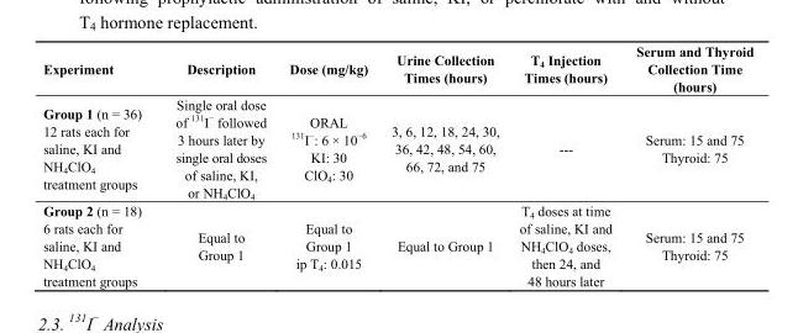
<table><thead><tr><td>Experiment</td><td>Description</td><td>Dose (mg/kg)</td><td>Urine Collection Times (hours)</td><td>T<sub>4</sub> Injection Times (hours)</td><td>Serum and Thyroid Collection Time (hours)</td></tr></thead><tbody><tr><td>Group 1 (n = 36) 12 rats each for saline, KI and NH<sub>4</sub>ClO<sub>4</sub> treatment groups</td><td>Single oral dose of <sup>131</sup>I<sup>−</sup> followed 3 hours later by single oral doses of saline, KI, or NH<sub>4</sub>ClO<sub>4</sub></td><td>ORAL <sup>131</sup>I<sup>−</sup>: 6 × 10<sup>−6</sup> KI: 30 ClO<sub>4</sub>: 30</td><td>3, 6, 12, 18, 24, 30, 36, 42, 48, 54, 60, 66, 72, and 75</td><td>---</td><td>Serum: 15 and 75 Thyroid: 75</td></tr><tr><td>Group 2 (n = 18) 6 rats each for saline, KI and NH<sub>4</sub>ClO<sub>4</sub> treatment groups</td><td>Equal to Group 1</td><td>Equal to Group 1 ip T<sub>4</sub>: 0.015</td><td>Equal to Group 1</td><td>T<sub>4</sub> doses at time of saline, KI and NH<sub>4</sub>ClO<sub>4</sub> doses, then 24, and 48 hours later</td><td>Serum: 15 and 75 Thyroid: 75</td></tr></tbody></table>